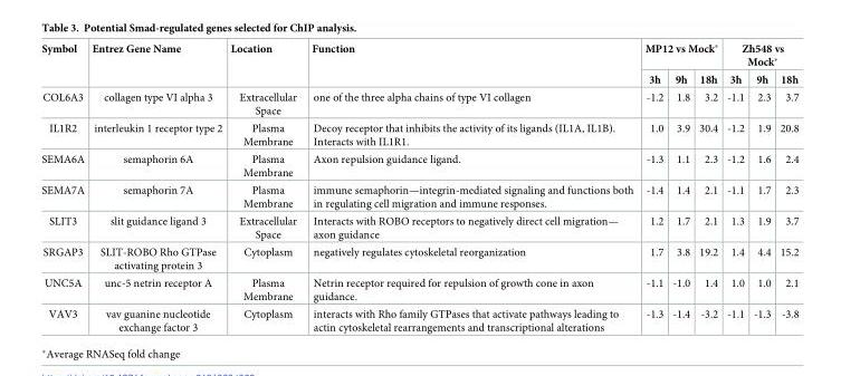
<table><thead><tr><td rowspan="2">Symbol</td><td rowspan="2">Entrez Gene Name</td><td rowspan="2">Location</td><td rowspan="2">Function</td><td colspan="3">MP12 vs Mock*</td><td colspan="3">Zh548 vs Mock*</td></tr><tr><td>3h</td><td>9h</td><td>18h</td><td>3h</td><td>9h</td><td>18h</td></tr></thead><tbody><tr><td>COL6A3</td><td>collagen type VI alpha 3</td><td>Extracellular Space</td><td>one of the three alpha chains of type VI collagen</td><td>-1.2</td><td>1.8</td><td>3.2</td><td>-1.1</td><td>2.3</td><td>3.7</td></tr><tr><td>IL1R2</td><td>interleukin 1 receptor type 2</td><td>Plasma Membrane</td><td>Decoy receptor that inhibits the activity of its ligands (IL1A, IL1B). Interacts with IL1R1.</td><td>1.0</td><td>3.9</td><td>30.4</td><td>-1.2</td><td>1.9</td><td>20.8</td></tr><tr><td>SEMA6A</td><td>semaphorin 6A</td><td>Plasma Membrane</td><td>Axon repulsion guidance ligand.</td><td>-1.3</td><td>1.1</td><td>2.3</td><td>-1.2</td><td>1.6</td><td>2.4</td></tr><tr><td>SEMA7A</td><td>semaphorin 7A</td><td>Plasma Membrane</td><td>immune semaphorin—integrin-mediated signaling and functions both in regulating cell migration and immune responses.</td><td>-1.4</td><td>1.4</td><td>2.1</td><td>-1.1</td><td>1.7</td><td>2.3</td></tr><tr><td>SLIT3</td><td>slit guidance ligand 3</td><td>Extracellular Space</td><td>Interacts with ROBO receptors to negatively direct cell migration— axon guidance</td><td>1.2</td><td>1.7</td><td>2.1</td><td>1.3</td><td>1.9</td><td>3.7</td></tr><tr><td>SRGAP3</td><td>SLIT-ROBO Rho GTPase activating protein 3</td><td>Cytoplasm</td><td>negatively regulates cytoskeletal reorganization</td><td>1.7</td><td>3.8</td><td>19.2</td><td>1.4</td><td>4.4</td><td>15.2</td></tr><tr><td>UNC5A</td><td>unc-5 netrin receptor A</td><td>Plasma Membrane</td><td>Netrin receptor required for repulsion of growth cone in axon guidance.</td><td>-1.1</td><td>-1.0</td><td>1.4</td><td>1.0</td><td>1.0</td><td>2.1</td></tr><tr><td>VAV3</td><td>vav guanine nucleotide exchange factor 3</td><td>Cytoplasm</td><td>interacts with Rho family GTPases that activate pathways leading to actin cytoskeletal rearrangements and transcriptional alterations</td><td>-1.3</td><td>-1.4</td><td>-3.2</td><td>-1.1</td><td>-1.3</td><td>-3.8</td></tr></tbody></table>